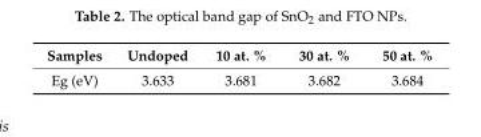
<table><thead><tr><td>Samples</td><td>Undoped</td><td>10 at. %</td><td>30 at. %</td><td>50 at. %</td></tr></thead><tbody><tr><td>Eg (eV)</td><td>3.633</td><td>3.681</td><td>3.682</td><td>3.684</td></tr></tbody></table>